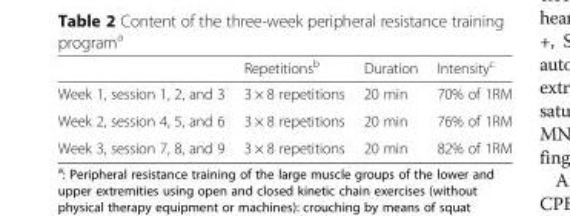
<table><thead><tr><td></td><td>Repetitions<sup>b</sup></td><td>Duration</td><td>Intensity<sup>c</sup></td></tr></thead><tbody><tr><td>Week 1, session 1, 2, and 3</td><td>3 × 8 repetitions</td><td>20 min</td><td>70% of 1RM</td></tr><tr><td>Week 2, session 4, 5, and 6</td><td>3 × 8 repetitions</td><td>20 min</td><td>76% of 1RM</td></tr><tr><td>Week 3, session 7, 8, and 9</td><td>3 × 8 repetitions</td><td>20 min</td><td>82% of 1RM</td></tr></tbody></table>